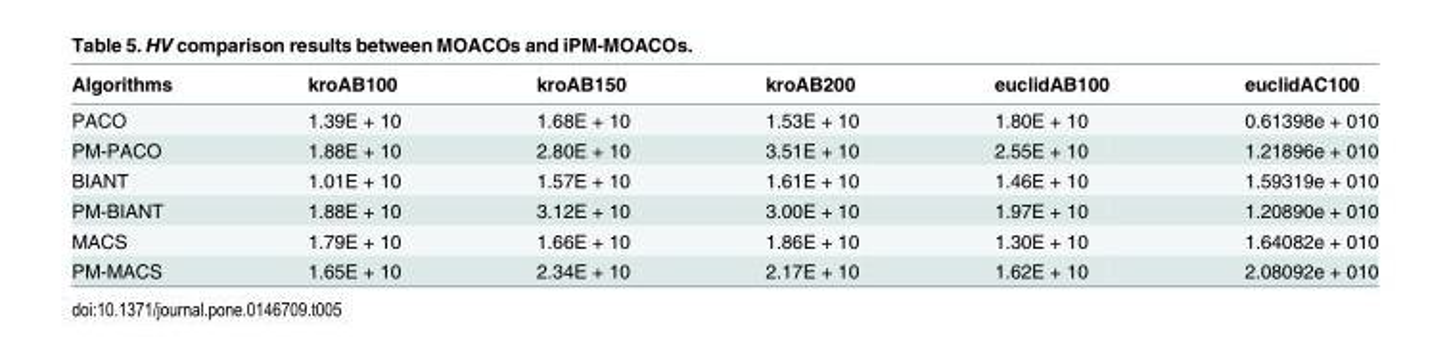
<table><thead><tr><td>Algorithms</td><td>kroAB100</td><td>kroAB150</td><td>kroAB200</td><td>euclidAB100</td><td>euclidAC100</td></tr></thead><tbody><tr><td>PACO</td><td>1.39E + 10</td><td>1.68E + 10</td><td>1.53E + 10</td><td>1.80E + 10</td><td>0.61398e + 010</td></tr><tr><td>PM-PACO</td><td>1.88E + 10</td><td>2.80E + 10</td><td>3.51E + 10</td><td>2.55E + 10</td><td>1.21896e + 010</td></tr><tr><td>BIANT</td><td>1.01E + 10</td><td>1.57E + 10</td><td>1.61E + 10</td><td>1.46E + 10</td><td>1.59319e + 010</td></tr><tr><td>PM-BIANT</td><td>1.88E + 10</td><td>3.12E + 10</td><td>3.00E + 10</td><td>1.97E + 10</td><td>1.20890e + 010</td></tr><tr><td>MACS</td><td>1.79E + 10</td><td>1.66E + 10</td><td>1.86E + 10</td><td>1.30E + 10</td><td>1.64082e + 010</td></tr><tr><td>PM-MACS</td><td>1.65E + 10</td><td>2.34E + 10</td><td>2.17E + 10</td><td>1.62E + 10</td><td>2.08092e + 010</td></tr></tbody></table>